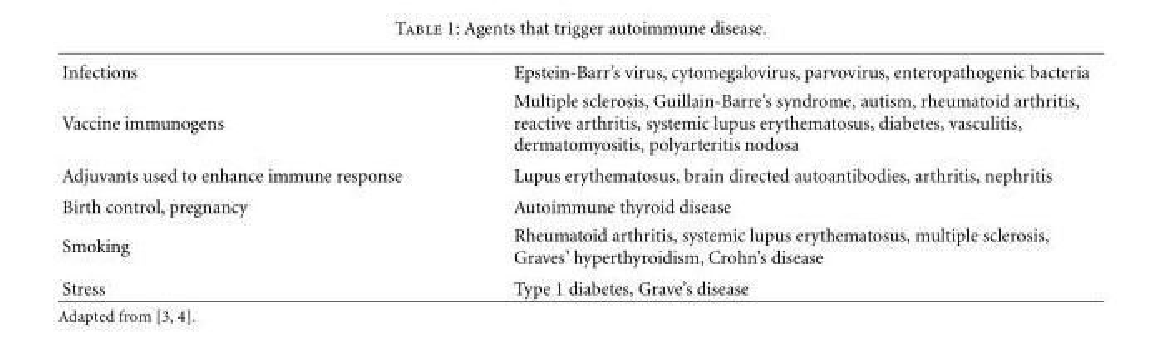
<table><tbody><tr><td>Infections</td><td>Epstein-Barr’s virus, cytomegalovirus, parvovirus, enteropathogenic bacteria</td></tr><tr><td>Vaccine immunogens</td><td>Multiple sclerosis, Guillain-Barre’s syndrome, autism, rheumatoid arthritis, reactive arthritis, systemic lupus erythematosus, diabetes, vasculitis, dermatomyositis, polyarteritis nodosa</td></tr><tr><td>Adjuvants used to enhance immune response</td><td>Lupus erythematosus, brain directed autoantibodies, arthritis, nephritis</td></tr><tr><td>Birth control, pregnancy</td><td>Autoimmune thyroid disease</td></tr><tr><td>Smoking</td><td>Rheumatoid arthritis, systemic lupus erythematosus, multiple sclerosis, Graves’ hyperthyroidism, Crohn’s disease</td></tr><tr><td>Stress</td><td>Type 1 diabetes, Grave’s disease</td></tr></tbody></table>